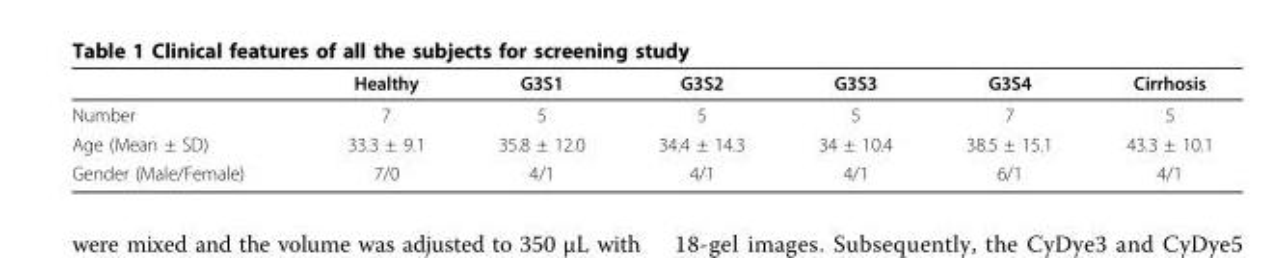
<table><thead><tr><td></td><td>Healthy</td><td>G3S1</td><td>G3S2</td><td>G3S3</td><td>G3S4</td><td>Cirrhosis</td></tr></thead><tbody><tr><td>Number</td><td>7</td><td>5</td><td>5</td><td>5</td><td>7</td><td>5</td></tr><tr><td>Age (Mean ± SD)</td><td>33.3 ± 9.1</td><td>35.8 ± 12.0</td><td>34.4 ± 14.3</td><td>34 ± 10.4</td><td>38.5 ± 15.1</td><td>43.3 ± 10.1</td></tr><tr><td>Gender (Male/Female)</td><td>7/0</td><td>4/1</td><td>4/1</td><td>4/1</td><td>6/1</td><td>4/1</td></tr></tbody></table>